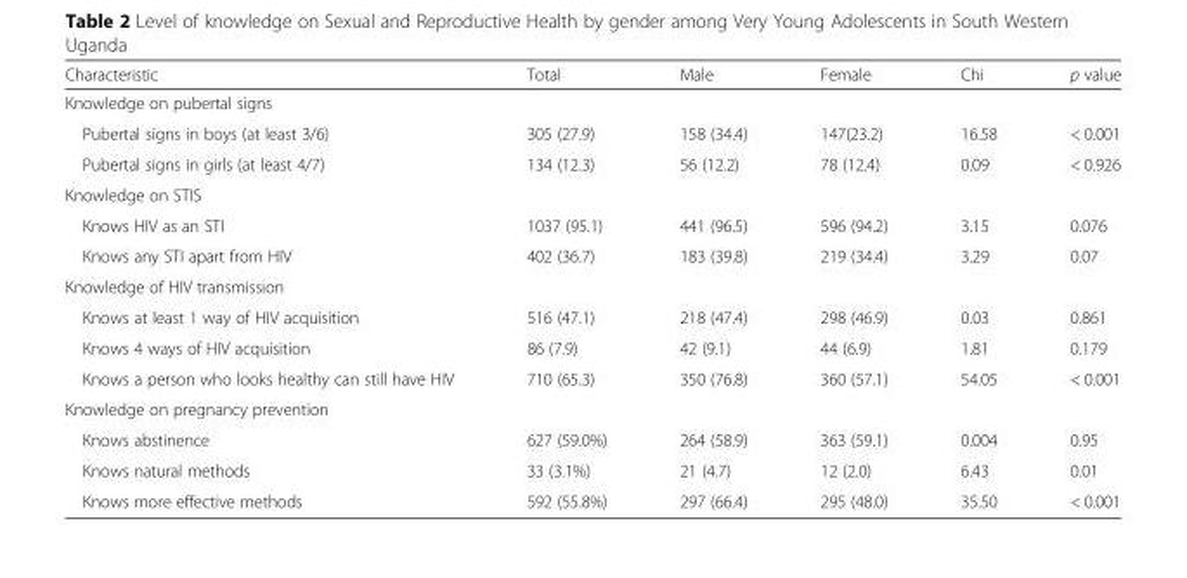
<table><thead><tr><td>Characteristic</td><td>Total</td><td>Male</td><td>Female</td><td>Chi</td><td>p value</td></tr></thead><tbody><tr><td colspan="6">Knowledge on pubertal signs</td></tr><tr><td>Pubertal signs in boys (at least 3/6)</td><td>305 (27.9)</td><td>158 (34.4)</td><td>147(23.2)</td><td>16.58</td><td>&lt; 0.001</td></tr><tr><td>Pubertal signs in girls (at least 4/7)</td><td>134 (12.3)</td><td>56 (12.2)</td><td>78 (12.4)</td><td>0.09</td><td>&lt; 0.926</td></tr><tr><td colspan="6">Knowledge on STIS</td></tr><tr><td>Knows HIV as an STI</td><td>1037 (95.1)</td><td>441 (96.5)</td><td>596 (94.2)</td><td>3.15</td><td>0.076</td></tr><tr><td>Knows any STI apart from HIV</td><td>402 (36.7)</td><td>183 (39.8)</td><td>219 (34.4)</td><td>3.29</td><td>0.07</td></tr><tr><td colspan="6">Knowledge of HIV transmission</td></tr><tr><td>Knows at least 1 way of HIV acquisition</td><td>516 (47.1)</td><td>218 (47.4)</td><td>298 (46.9)</td><td>0.03</td><td>0.861</td></tr><tr><td>Knows 4 ways of HIV acquisition</td><td>86 (7.9)</td><td>42 (9.1)</td><td>44 (6.9)</td><td>1.81</td><td>0.179</td></tr><tr><td>Knows a person who looks healthy can still have HIV</td><td>710 (65.3)</td><td>350 (76.8)</td><td>360 (57.1)</td><td>54.05</td><td>&lt; 0.001</td></tr><tr><td colspan="6">Knowledge on pregnancy prevention</td></tr><tr><td>Knows abstinence</td><td>627 (59.0%)</td><td>264 (58.9)</td><td>363 (59.1)</td><td>0.004</td><td>0.95</td></tr><tr><td>Knows natural methods</td><td>33 (3.1%)</td><td>21 (4.7)</td><td>12 (2.0)</td><td>6.43</td><td>0.01</td></tr><tr><td>Knows more effective methods</td><td>592 (55.8%)</td><td>297 (66.4)</td><td>295 (48.0)</td><td>35.50</td><td>&lt; 0.001</td></tr></tbody></table>